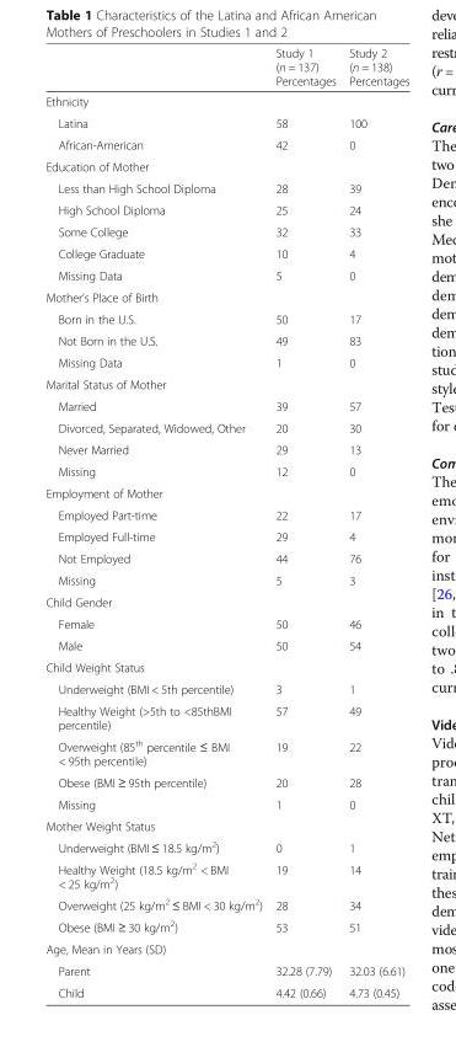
<table><thead><tr><td></td><td>Study 1 (n = 137) Percentages</td><td>Study 2 (n = 138) Percentages</td></tr></thead><tbody><tr><td colspan="3">Ethnicity</td></tr><tr><td>Latina</td><td>58</td><td>100</td></tr><tr><td>African-American</td><td>42</td><td>0</td></tr><tr><td colspan="3">Education of Mother</td></tr><tr><td>Less than High School Diploma</td><td>28</td><td>39</td></tr><tr><td>High School Diploma</td><td>25</td><td>24</td></tr><tr><td>Some College</td><td>32</td><td>33</td></tr><tr><td>College Graduate</td><td>10</td><td>4</td></tr><tr><td>Missing Data</td><td>5</td><td>0</td></tr><tr><td colspan="3">Mother’s Place of Birth</td></tr><tr><td>Born in the U.S.</td><td>50</td><td>17</td></tr><tr><td>Not Born in the U.S.</td><td>49</td><td>83</td></tr><tr><td>Missing Data</td><td>1</td><td>0</td></tr><tr><td colspan="3">Marital Status of Mother</td></tr><tr><td>Married</td><td>39</td><td>57</td></tr><tr><td>Divorced, Separated, Widowed, Other</td><td>20</td><td>30</td></tr><tr><td>Never Married</td><td>29</td><td>13</td></tr><tr><td>Missing</td><td>12</td><td>0</td></tr><tr><td colspan="3">Employment of Mother</td></tr><tr><td>Employed Part-time</td><td>22</td><td>17</td></tr><tr><td>Employed Full-time</td><td>29</td><td>4</td></tr><tr><td>Not Employed</td><td>44</td><td>76</td></tr><tr><td>Missing</td><td>5</td><td>3</td></tr><tr><td colspan="3">Child Gender</td></tr><tr><td>Female</td><td>50</td><td>46</td></tr><tr><td>Male</td><td>50</td><td>54</td></tr><tr><td colspan="3">Child Weight Status</td></tr><tr><td>Underweight (BMI &lt; 5th percentile)</td><td>3</td><td>1</td></tr><tr><td>Healthy Weight (&gt;5th to &lt;85thBMI percentile)</td><td>57</td><td>49</td></tr><tr><td>Overweight (85<sup>th</sup> percentile ≤ BMI &lt; 95th percentile)</td><td>19</td><td>22</td></tr><tr><td>Obese (BMI ≥ 95th percentile)</td><td>20</td><td>28</td></tr><tr><td>Missing</td><td>1</td><td>0</td></tr><tr><td colspan="3">Mother Weight Status</td></tr><tr><td>Underweight (BMI ≤ 18.5 kg/m<sup>2</sup>)</td><td>0</td><td>1</td></tr><tr><td>Healthy Weight (18.5 kg/m<sup>2</sup> &lt; BMI &lt; 25 kg/m<sup>2</sup>)</td><td>19</td><td>14</td></tr><tr><td>Overweight (25 kg/m<sup>2</sup> ≤ BMI &lt; 30 kg/m<sup>2</sup>)</td><td>28</td><td>34</td></tr><tr><td>Obese (BMI ≥ 30 kg/m<sup>2</sup>)</td><td>53</td><td>51</td></tr><tr><td colspan="3">Age, Mean in Years (SD)</td></tr><tr><td>Parent</td><td>32.28 (7.79)</td><td>32.03 (6.61)</td></tr><tr><td>Child</td><td>4.42 (0.66)</td><td>4.73 (0.45)</td></tr></tbody></table>